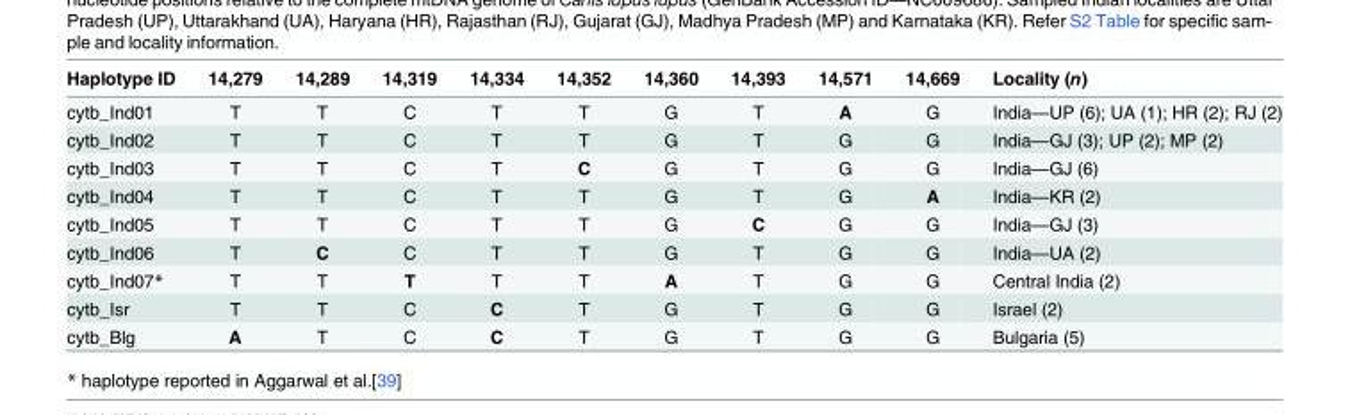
<table><thead><tr><td>Haplotype ID</td><td>14,279</td><td>14,289</td><td>14,319</td><td>14,334</td><td>14,352</td><td>14,360</td><td>14,393</td><td>14,571</td><td>14,669</td><td>Locality (n)</td></tr></thead><tbody><tr><td>cytb_Ind01</td><td>T</td><td>T</td><td>C</td><td>T</td><td>T</td><td>G</td><td>T</td><td>A</td><td>G</td><td>India—UP (6); UA (1); HR (2); RJ (2)</td></tr><tr><td>cytb_Ind02</td><td>T</td><td>T</td><td>C</td><td>T</td><td>T</td><td>G</td><td>T</td><td>G</td><td>G</td><td>India—GJ (3); UP (2); MP (2)</td></tr><tr><td>cytb_Ind03</td><td>T</td><td>T</td><td>C</td><td>T</td><td>C</td><td>G</td><td>T</td><td>G</td><td>G</td><td>India—GJ (6)</td></tr><tr><td>cytb_Ind04</td><td>T</td><td>T</td><td>C</td><td>T</td><td>T</td><td>G</td><td>T</td><td>G</td><td>A</td><td>India—KR (2)</td></tr><tr><td>cytb_Ind05</td><td>T</td><td>T</td><td>C</td><td>T</td><td>T</td><td>G</td><td>C</td><td>G</td><td>G</td><td>India—GJ (3)</td></tr><tr><td>cytb_Ind06</td><td>T</td><td>C</td><td>C</td><td>T</td><td>T</td><td>G</td><td>T</td><td>G</td><td>G</td><td>India—UA (2)</td></tr><tr><td>cytb_Ind07*</td><td>T</td><td>T</td><td>T</td><td>T</td><td>T</td><td>A</td><td>T</td><td>G</td><td>G</td><td>Central India (2)</td></tr><tr><td>cytb_Isr</td><td>T</td><td>T</td><td>C</td><td>C</td><td>T</td><td>G</td><td>T</td><td>G</td><td>G</td><td>Israel (2)</td></tr><tr><td>cytb_Blg</td><td>A</td><td>T</td><td>C</td><td>C</td><td>T</td><td>G</td><td>T</td><td>G</td><td>G</td><td>Bulgaria (5)</td></tr></tbody></table>